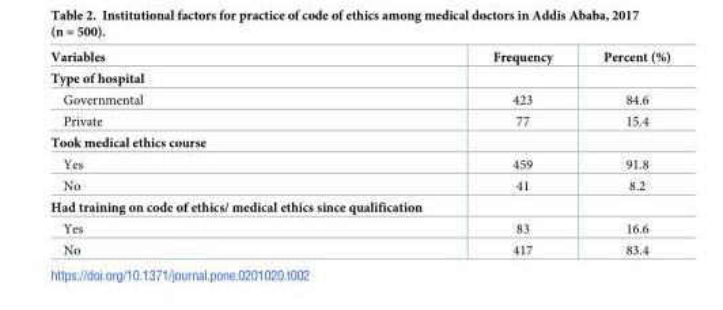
<table><thead><tr><td>Variables</td><td>Frequency</td><td>Percent (%)</td></tr></thead><tbody><tr><td colspan="3">Type of hospital</td></tr><tr><td>Governmental</td><td>423</td><td>84.6</td></tr><tr><td>Private</td><td>77</td><td>15.4</td></tr><tr><td colspan="3">Took medical ethics course</td></tr><tr><td>Yes</td><td>459</td><td>91.8</td></tr><tr><td>No</td><td>41</td><td>8.2</td></tr><tr><td colspan="3">Had training on code of ethics/ medical ethics since qualification</td></tr><tr><td>Yes</td><td>83</td><td>16.6</td></tr><tr><td>No</td><td>417</td><td>83.4</td></tr></tbody></table>